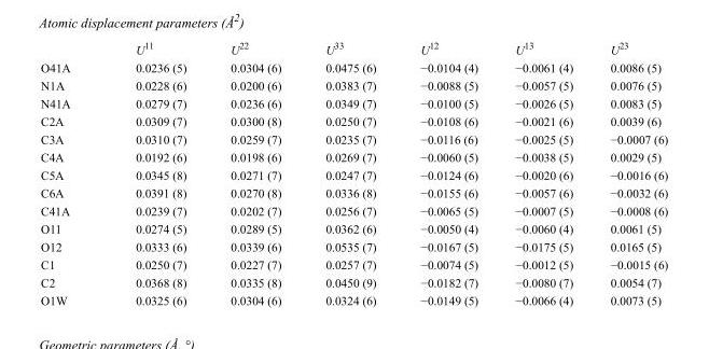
<table><thead><tr><td></td><td>U<sup>11</sup></td><td>U<sup>22</sup></td><td>U<sup>33</sup></td><td>U<sup>12</sup></td><td>U<sup>13</sup></td><td>U<sup>23</sup></td></tr></thead><tbody><tr><td>O41A</td><td>0.0236 (5)</td><td>0.0304 (6)</td><td>0.0475 (6)</td><td>−0.0104 (4)</td><td>−0.0061 (4)</td><td>0.0086 (5)</td></tr><tr><td>N1A</td><td>0.0228 (6)</td><td>0.0200 (6)</td><td>0.0383 (7)</td><td>−0.0088 (5)</td><td>−0.0057 (5)</td><td>0.0076 (5)</td></tr><tr><td>N41A</td><td>0.0279 (7)</td><td>0.0236 (6)</td><td>0.0349 (7)</td><td>−0.0100 (5)</td><td>−0.0026 (5)</td><td>0.0083 (5)</td></tr><tr><td>C2A</td><td>0.0309 (7)</td><td>0.0300 (8)</td><td>0.0250 (7)</td><td>−0.0108 (6)</td><td>−0.0021 (6)</td><td>0.0039 (6)</td></tr><tr><td>C3A</td><td>0.0310 (7)</td><td>0.0259 (7)</td><td>0.0235 (7)</td><td>−0.0116 (6)</td><td>−0.0025 (5)</td><td>−0.0007 (6)</td></tr><tr><td>C4A</td><td>0.0192 (6)</td><td>0.0198 (6)</td><td>0.0269 (7)</td><td>−0.0060 (5)</td><td>−0.0038 (5)</td><td>0.0029 (5)</td></tr><tr><td>C5A</td><td>0.0345 (8)</td><td>0.0271 (7)</td><td>0.0247 (7)</td><td>−0.0124 (6)</td><td>−0.0020 (6)</td><td>−0.0016 (6)</td></tr><tr><td>C6A</td><td>0.0391 (8)</td><td>0.0270 (8)</td><td>0.0336 (8)</td><td>−0.0155 (6)</td><td>−0.0057 (6)</td><td>−0.0032 (6)</td></tr><tr><td>C41A</td><td>0.0239 (7)</td><td>0.0202 (7)</td><td>0.0256 (7)</td><td>−0.0065 (5)</td><td>−0.0007 (5)</td><td>−0.0008 (6)</td></tr><tr><td>O11</td><td>0.0274 (5)</td><td>0.0289 (5)</td><td>0.0362 (6)</td><td>−0.0050 (4)</td><td>−0.0060 (4)</td><td>0.0061 (5)</td></tr><tr><td>O12</td><td>0.0333 (6)</td><td>0.0339 (6)</td><td>0.0535 (7)</td><td>−0.0167 (5)</td><td>−0.0175 (5)</td><td>0.0165 (5)</td></tr><tr><td>C1</td><td>0.0250 (7)</td><td>0.0227 (7)</td><td>0.0257 (7)</td><td>−0.0074 (5)</td><td>−0.0012 (5)</td><td>−0.0015 (6)</td></tr><tr><td>C2</td><td>0.0368 (8)</td><td>0.0335 (8)</td><td>0.0450 (9)</td><td>−0.0182 (7)</td><td>−0.0080 (7)</td><td>0.0054 (7)</td></tr><tr><td>O1W</td><td>0.0325 (6)</td><td>0.0304 (6)</td><td>0.0324 (6)</td><td>−0.0149 (5)</td><td>−0.0066 (4)</td><td>0.0073 (5)</td></tr></tbody></table>